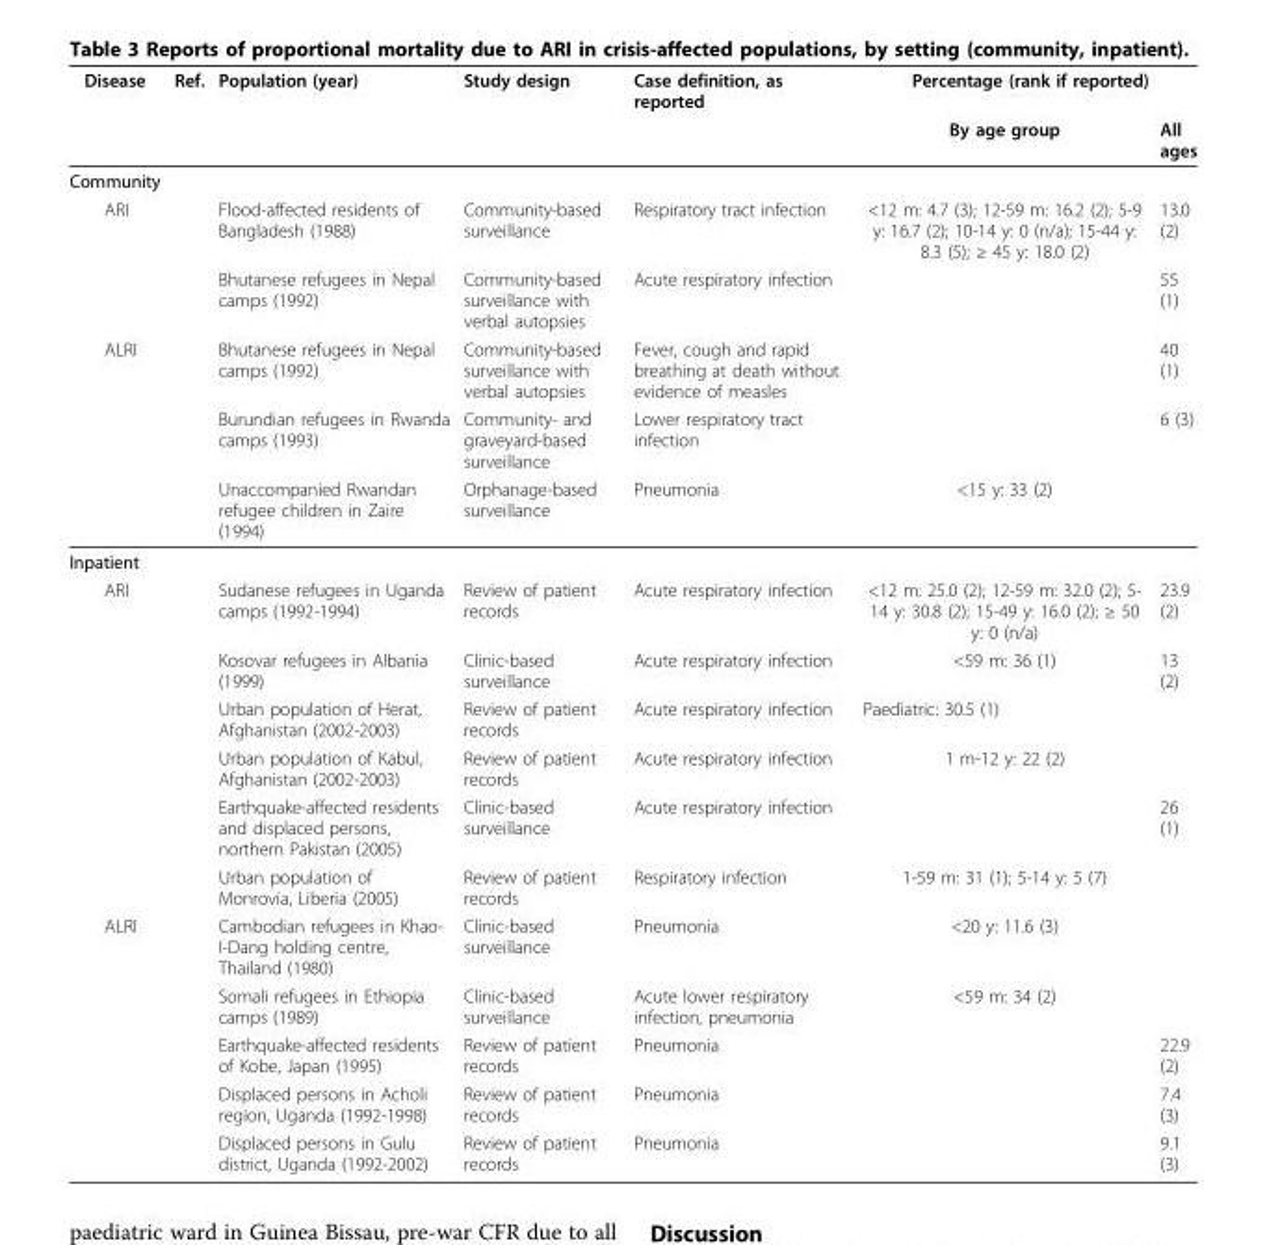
<table><tbody><tr><td rowspan="2">Disease</td><td>Ref.</td><td>Population (year)</td><td>Study design</td><td>Case definition, as reported</td><td colspan="2">Percentage (rank if reported)</td></tr><tr><td></td><td></td><td></td><td></td><td>By age group</td><td>All ages</td></tr><tr><td colspan="7">Community</td></tr><tr><td rowspan="2">ARI</td><td></td><td>Flood-affected residents of Bangladesh (1988)</td><td>Community-based surveillance</td><td>Respiratory tract infection</td><td>&lt;12 m: 4.7 (3); 12-59 m: 16.2 (2); 5-9 y: 16.7 (2); 10-14 y: 0 (n/a); 15-44 y: 8.3 (5); ≥ 45 y: 18.0 (2)</td><td>13.0 (2)</td></tr><tr><td></td><td>Bhutanese refugees in Nepal camps (1992)</td><td>Community-based surveillance with verbal autopsies</td><td>Acute respiratory infection</td><td></td><td>55 (1)</td></tr><tr><td rowspan="3">ALRI</td><td></td><td>Bhutanese refugees in Nepal camps (1992)</td><td>Community-based surveillance with verbal autopsies</td><td>Fever, cough and rapid breathing at death without evidence of measles</td><td></td><td>40 (1)</td></tr><tr><td></td><td>Burundian refugees in Rwanda camps (1993)</td><td>Community- and graveyard-based surveillance</td><td>Lower respiratory tract infection</td><td></td><td>6 (3)</td></tr><tr><td></td><td>Unaccompanied Rwandan refugee children in Zaire (1994)</td><td>Orphanage-based surveillance</td><td>Pneumonia</td><td>&lt;15 y: 33 (2)</td><td></td></tr><tr><td colspan="7">Inpatient</td></tr><tr><td rowspan="6">ARI</td><td></td><td>Sudanese refugees in Uganda camps (1992-1994)</td><td>Review of patient records</td><td>Acute respiratory infection</td><td>&lt;12 m: 25.0 (2); 12-59 m: 32.0 (2); 5- 14 y: 30.8 (2); 15-49 y: 16.0 (2); ≥ 50 y: 0 (n/a)</td><td>23.9 (2)</td></tr><tr><td></td><td>Kosovar refugees in Albania (1999)</td><td>Clinic-based surveillance</td><td>Acute respiratory infection</td><td>&lt;59 m: 36 (1)</td><td>13 (2)</td></tr><tr><td></td><td>Urban population of Herat, Afghanistan (2002-2003)</td><td>Review of patient records</td><td>Acute respiratory infection</td><td>Paediatric: 30.5 (1)</td><td></td></tr><tr><td></td><td>Urban population of Kabul, Afghanistan (2002-2003)</td><td>Review of patient records</td><td>Acute respiratory infection</td><td>1 m-12 y: 22 (2)</td><td></td></tr><tr><td></td><td>Earthquake-affected residents and displaced persons, northern Pakistan (2005)</td><td>Clinic-based surveillance</td><td>Acute respiratory infection</td><td></td><td>26 (1)</td></tr><tr><td></td><td>Urban population of Monrovia, Liberia (2005)</td><td>Review of patient records</td><td>Respiratory infection</td><td>1-59 m: 31 (1); 5-14 y: 5 (7)</td><td></td></tr><tr><td rowspan="5">ALRI</td><td></td><td>Cambodian refugees in Khao- I-Dang holding centre, Thailand (1980)</td><td>Clinic-based surveillance</td><td>Pneumonia</td><td>&lt;20 y: 11.6 (3)</td><td></td></tr><tr><td></td><td>Somali refugees in Ethiopia camps (1989)</td><td>Clinic-based surveillance</td><td>Acute lower respiratory infection, pneumonia</td><td>&lt;59 m: 34 (2)</td><td></td></tr><tr><td></td><td>Earthquake-affected residents of Kobe, Japan (1995)</td><td>Review of patient records</td><td>Pneumonia</td><td></td><td>22.9 (2)</td></tr><tr><td></td><td>Displaced persons in Acholi region, Uganda (1992-1998)</td><td>Review of patient records</td><td>Pneumonia</td><td></td><td>7.4 (3)</td></tr><tr><td></td><td>Displaced persons in Gulu district, Uganda (1992-2002)</td><td>Review of patient records</td><td>Pneumonia</td><td></td><td>9.1 (3)</td></tr></tbody></table>